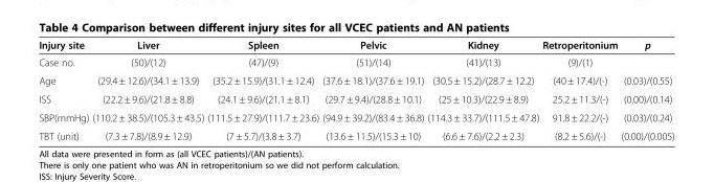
<table><thead><tr><td>Injury site</td><td>Liver</td><td>Spleen</td><td>Pelvic</td><td>Kidney</td><td>Retroperitonium</td><td>p</td></tr></thead><tbody><tr><td>Case no.</td><td>(50)/(12)</td><td>(47)/(9)</td><td>(51)/(14)</td><td>(41)/(13)</td><td>(9)/(1)</td><td></td></tr><tr><td>Age</td><td>(29.4 ± 12.6)/(34.1 ± 13.9)</td><td>(35.2 ± 15.9)/(31.1 ± 12.4)</td><td>(37.6 ± 18.1)/(37.6 ± 19.1)</td><td>(30.5 ± 15.2)/(28.7 ± 12.2)</td><td>(40 ± 17.4)/(-)</td><td>(0.03)/(0.55)</td></tr><tr><td>ISS</td><td>(22.2 ± 9.6)/(21.8 ± 8.8)</td><td>(24.1 ± 9.6)/(21.1 ± 8.1)</td><td>(29.7 ± 9.4)/(28.8 ± 10.1)</td><td>(25 ± 10.3)/(22.9 ± 8.9)</td><td>25.2 ± 11.3/(-)</td><td>(0.00)/(0.14)</td></tr><tr><td>SBP(mmHg)</td><td>(110.2 ± 38.5)/(105.3 ± 43.5)</td><td>(111.5 ± 27.9)/(111.7 ± 23.6)</td><td>(94.9 ± 39.2)/(83.4 ± 36.8)</td><td>(114.3 ± 33.7)/(111.5 ± 47.8)</td><td>91.8 ± 22.2/(-)</td><td>(0.03)/(0.24)</td></tr><tr><td>TBT (unit)</td><td>(7.3 ± 7.8)/(8.9 ± 12.9)</td><td>(7 ± 5.7)/(3.8 ± 3.7)</td><td>(13.6 ± 11.5)/(15.3 ± 10)</td><td>(6.6 ± 7.6)/(2.2 ± 2.3)</td><td>(8.2 ± 5.6)/(-)</td><td>(0.00)/(0.005)</td></tr></tbody></table>